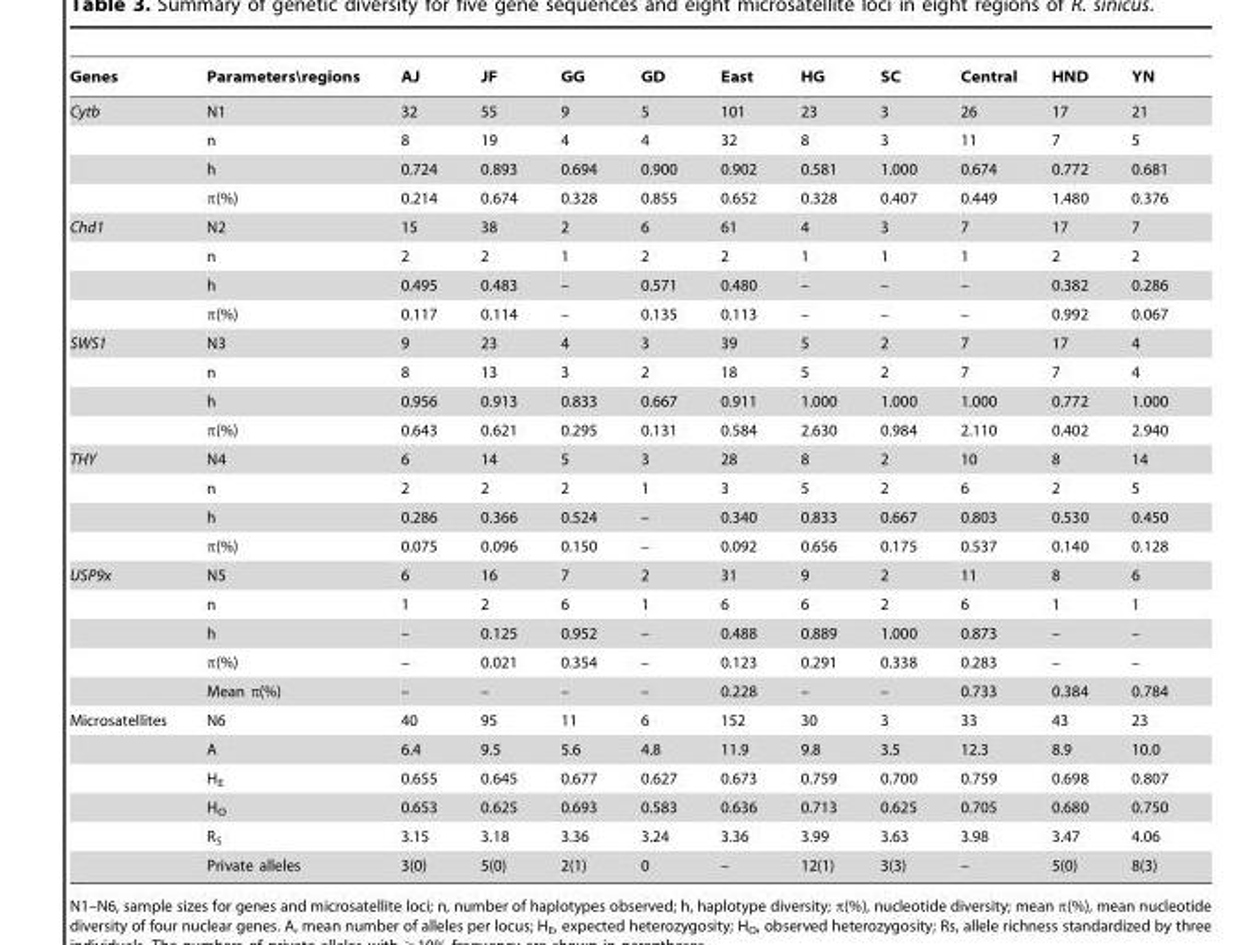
<table><thead><tr><td>Genes</td><td>Parameters\regions</td><td>AJ</td><td>JF</td><td>GG</td><td>GD</td><td>East</td><td>HG</td><td>SC</td><td>Central</td><td>HND</td><td>YN</td></tr></thead><tbody><tr><td rowspan="4">Cytb</td><td>N1</td><td>32</td><td>55</td><td>9</td><td>5</td><td>101</td><td>23</td><td>3</td><td>26</td><td>17</td><td>21</td></tr><tr><td>n</td><td>8</td><td>19</td><td>4</td><td>4</td><td>32</td><td>8</td><td>3</td><td>11</td><td>7</td><td>5</td></tr><tr><td>h</td><td>0.724</td><td>0.893</td><td>0.694</td><td>0.900</td><td>0.902</td><td>0.581</td><td>1.000</td><td>0.674</td><td>0.772</td><td>0.681</td></tr><tr><td>π(%)</td><td>0.214</td><td>0.674</td><td>0.328</td><td>0.855</td><td>0.652</td><td>0.328</td><td>0.407</td><td>0.449</td><td>1.480</td><td>0.376</td></tr><tr><td rowspan="4">Chd1</td><td>N2</td><td>15</td><td>38</td><td>2</td><td>6</td><td>61</td><td>4</td><td>3</td><td>7</td><td>17</td><td>7</td></tr><tr><td>n</td><td>2</td><td>2</td><td>1</td><td>2</td><td>2</td><td>1</td><td>1</td><td>1</td><td>2</td><td>2</td></tr><tr><td>h</td><td>0.495</td><td>0.483</td><td>–</td><td>0.571</td><td>0.480</td><td>–</td><td>–</td><td>–</td><td>0.382</td><td>0.286</td></tr><tr><td>π(%)</td><td>0.117</td><td>0.114</td><td>–</td><td>0.135</td><td>0.113</td><td>–</td><td>–</td><td>–</td><td>0.992</td><td>0.067</td></tr><tr><td rowspan="4">SWS1</td><td>N3</td><td>9</td><td>23</td><td>4</td><td>3</td><td>39</td><td>5</td><td>2</td><td>7</td><td>17</td><td>4</td></tr><tr><td>n</td><td>8</td><td>13</td><td>3</td><td>2</td><td>18</td><td>5</td><td>2</td><td>7</td><td>7</td><td>4</td></tr><tr><td>h</td><td>0.956</td><td>0.913</td><td>0.833</td><td>0.667</td><td>0.911</td><td>1.000</td><td>1.000</td><td>1.000</td><td>0.772</td><td>1.000</td></tr><tr><td>π(%)</td><td>0.643</td><td>0.621</td><td>0.295</td><td>0.131</td><td>0.584</td><td>2.630</td><td>0.984</td><td>2.110</td><td>0.402</td><td>2.940</td></tr><tr><td rowspan="4">THY</td><td>N4</td><td>6</td><td>14</td><td>5</td><td>3</td><td>28</td><td>8</td><td>2</td><td>10</td><td>8</td><td>14</td></tr><tr><td>n</td><td>2</td><td>2</td><td>2</td><td>1</td><td>3</td><td>5</td><td>2</td><td>6</td><td>2</td><td>5</td></tr><tr><td>h</td><td>0.286</td><td>0.366</td><td>0.524</td><td>–</td><td>0.340</td><td>0.833</td><td>0.667</td><td>0.803</td><td>0.530</td><td>0.450</td></tr><tr><td>π(%)</td><td>0.075</td><td>0.096</td><td>0.150</td><td>–</td><td>0.092</td><td>0.656</td><td>0.175</td><td>0.537</td><td>0.140</td><td>0.128</td></tr><tr><td rowspan="5">USP9x</td><td>N5</td><td>6</td><td>16</td><td>7</td><td>2</td><td>31</td><td>9</td><td>2</td><td>11</td><td>8</td><td>6</td></tr><tr><td>n</td><td>1</td><td>2</td><td>6</td><td>1</td><td>6</td><td>6</td><td>2</td><td>6</td><td>1</td><td>1</td></tr><tr><td>h</td><td>–</td><td>0.125</td><td>0.952</td><td>–</td><td>0.488</td><td>0.889</td><td>1.000</td><td>0.873</td><td>–</td><td>–</td></tr><tr><td>π(%)</td><td>–</td><td>0.021</td><td>0.354</td><td>–</td><td>0.123</td><td>0.291</td><td>0.338</td><td>0.283</td><td>–</td><td>–</td></tr><tr><td>Mean π(%)</td><td>–</td><td>–</td><td>–</td><td>–</td><td>0.228</td><td>–</td><td>–</td><td>0.733</td><td>0.384</td><td>0.784</td></tr><tr><td rowspan="6">Microsatellites</td><td>N6</td><td>40</td><td>95</td><td>11</td><td>6</td><td>152</td><td>30</td><td>3</td><td>33</td><td>43</td><td>23</td></tr><tr><td>A</td><td>6.4</td><td>9.5</td><td>5.6</td><td>4.8</td><td>11.9</td><td>9.8</td><td>3.5</td><td>12.3</td><td>8.9</td><td>10.0</td></tr><tr><td>H<sub>E</sub></td><td>0.655</td><td>0.645</td><td>0.677</td><td>0.627</td><td>0.673</td><td>0.759</td><td>0.700</td><td>0.759</td><td>0.698</td><td>0.807</td></tr><tr><td>H<sub>O</sub></td><td>0.653</td><td>0.625</td><td>0.693</td><td>0.583</td><td>0.636</td><td>0.713</td><td>0.625</td><td>0.705</td><td>0.680</td><td>0.750</td></tr><tr><td>R<sub>S</sub></td><td>3.15</td><td>3.18</td><td>3.36</td><td>3.24</td><td>3.36</td><td>3.99</td><td>3.63</td><td>3.98</td><td>3.47</td><td>4.06</td></tr><tr><td>Private alleles</td><td>3(0)</td><td>5(0)</td><td>2(1)</td><td>0</td><td>–</td><td>12(1)</td><td>3(3)</td><td>–</td><td>5(0)</td><td>8(3)</td></tr></tbody></table>